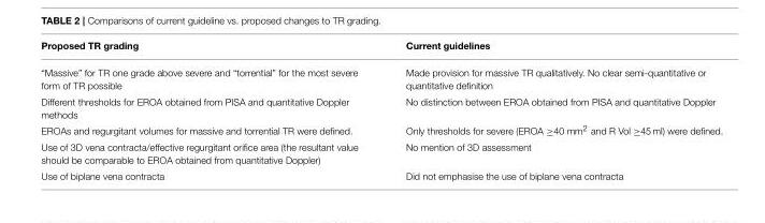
<table><thead><tr><td>Proposed TR grading</td><td>Current guidelines</td></tr></thead><tbody><tr><td>“Massive” for TR one grade above severe and “torrential” for the most severe form of TR possible</td><td>Made provision for massive TR qualitatively. No clear semi-quantitative or quantitative definition</td></tr><tr><td>Different thresholds for EROA obtained from PISA and quantitative Doppler methods</td><td>No distinction between EROA obtained from PISA and quantitative Doppler</td></tr><tr><td>EROAs and regurgitant volumes for massive and torrential TR were defined.</td><td>Only thresholds for severe (EROA ≥40 mm<sup>2</sup> and R Vol ≥45 ml) were defined.</td></tr><tr><td>Use of 3D vena contracta/effective regurgitant orifice area (the resultant value should be comparable to EROA obtained from quantitative Doppler)</td><td>No mention of 3D assessment</td></tr><tr><td>Use of biplane vena contracta</td><td>Did not emphasise the use of biplane vena contracta</td></tr></tbody></table>